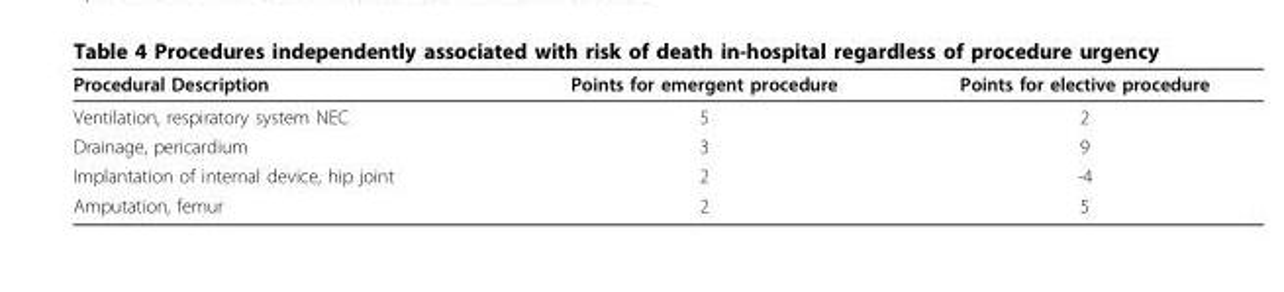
<table><thead><tr><td>Procedural Description</td><td>Points for emergent procedure</td><td>Points for elective procedure</td></tr></thead><tbody><tr><td>Ventilation, respiratory system NEC</td><td>5</td><td>2</td></tr><tr><td>Drainage, pericardium</td><td>3</td><td>9</td></tr><tr><td>Implantation of internal device, hip joint</td><td>2</td><td>-4</td></tr><tr><td>Amputation, femur</td><td>2</td><td>5</td></tr></tbody></table>